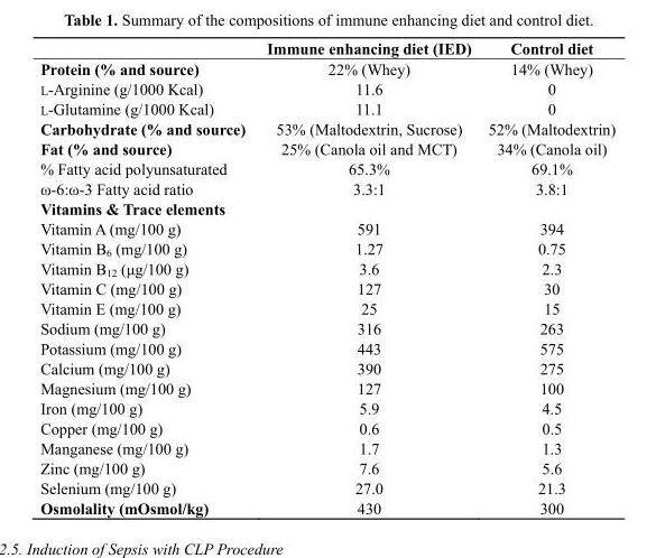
<table><thead><tr><td></td><td>Immune enhancing diet (IED)</td><td>Control diet</td></tr></thead><tbody><tr><td>Protein (% and source)</td><td>22% (Whey)</td><td>14% (Whey)</td></tr><tr><td>L-Arginine (g/1000 Kcal)</td><td>11.6</td><td>0</td></tr><tr><td>L-Glutamine (g/1000 Kcal)</td><td>11.1</td><td>0</td></tr><tr><td>Carbohydrate (% and source)</td><td>53% (Maltodextrin, Sucrose)</td><td>52% (Maltodextrin)</td></tr><tr><td>Fat (% and source)</td><td>25% (Canola oil and MCT)</td><td>34% (Canola oil)</td></tr><tr><td>% Fatty acid polyunsaturated</td><td>65.3%</td><td>69.1%</td></tr><tr><td>ω-6:ω-3 Fatty acid ratio</td><td>3.3:1</td><td>3.8:1</td></tr><tr><td colspan="3">Vitamins &amp; Trace elements</td></tr><tr><td>Vitamin A (mg/100 g)</td><td>591</td><td>394</td></tr><tr><td>Vitamin B<sub>6</sub> (mg/100 g)</td><td>1.27</td><td>0.75</td></tr><tr><td>Vitamin B<sub>12</sub> (μg/100 g)</td><td>3.6</td><td>2.3</td></tr><tr><td>Vitamin C (mg/100 g)</td><td>127</td><td>30</td></tr><tr><td>Vitamin E (mg/100 g)</td><td>25</td><td>15</td></tr><tr><td>Sodium (mg/100 g)</td><td>316</td><td>263</td></tr><tr><td>Potassium (mg/100 g)</td><td>443</td><td>575</td></tr><tr><td>Calcium (mg/100 g)</td><td>390</td><td>275</td></tr><tr><td>Magnesium (mg/100 g)</td><td>127</td><td>100</td></tr><tr><td>Iron (mg/100 g)</td><td>5.9</td><td>4.5</td></tr><tr><td>Copper (mg/100 g)</td><td>0.6</td><td>0.5</td></tr><tr><td>Manganese (mg/100 g)</td><td>1.7</td><td>1.3</td></tr><tr><td>Zinc (mg/100 g)</td><td>7.6</td><td>5.6</td></tr><tr><td>Selenium (mg/100 g)</td><td>27.0</td><td>21.3</td></tr><tr><td>Osmolality (mOsmol/kg)</td><td>430</td><td>300</td></tr></tbody></table>